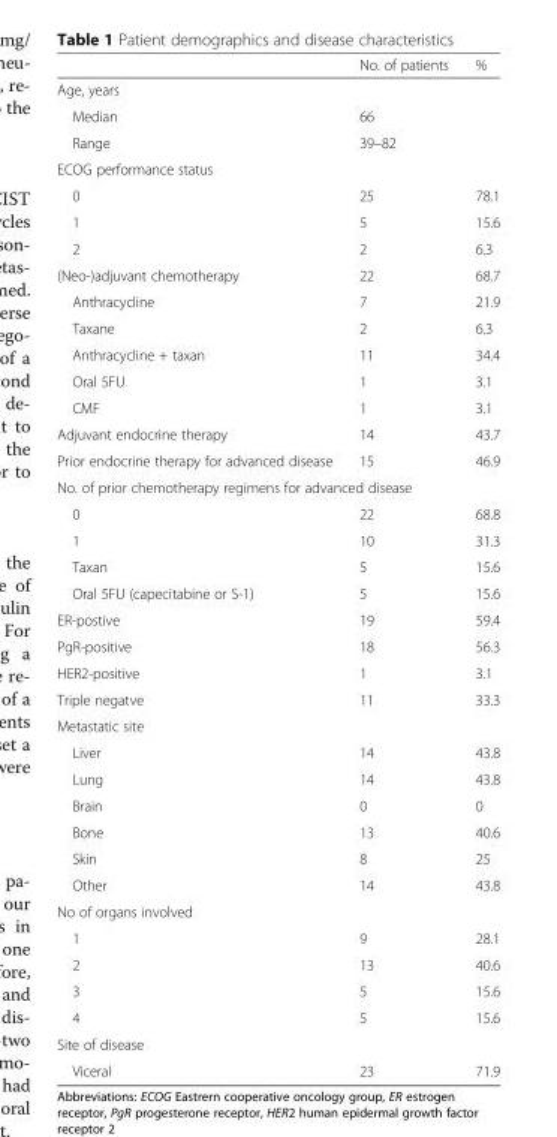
<table><thead><tr><td></td><td>No. of patients</td><td>%</td></tr></thead><tbody><tr><td colspan="3">Age, years</td></tr><tr><td>Median</td><td colspan="2">66</td></tr><tr><td>Range</td><td colspan="2">39–82</td></tr><tr><td colspan="3">ECOG performance status</td></tr><tr><td>0</td><td>25</td><td>78.1</td></tr><tr><td>1</td><td>5</td><td>15.6</td></tr><tr><td>2</td><td>2</td><td>6.3</td></tr><tr><td>(Neo-)adjuvant chemotherapy</td><td>22</td><td>68.7</td></tr><tr><td>Anthracycline</td><td>7</td><td>21.9</td></tr><tr><td>Taxane</td><td>2</td><td>6.3</td></tr><tr><td>Anthracycline + taxan</td><td>11</td><td>34.4</td></tr><tr><td>Oral 5FU</td><td>1</td><td>3.1</td></tr><tr><td>CMF</td><td>1</td><td>3.1</td></tr><tr><td>Adjuvant endocrine therapy</td><td>14</td><td>43.7</td></tr><tr><td>Prior endocrine therapy for advanced disease</td><td>15</td><td>46.9</td></tr><tr><td colspan="3">No. of prior chemotherapy regimens for advanced disease</td></tr><tr><td>0</td><td>22</td><td>68.8</td></tr><tr><td>1</td><td>10</td><td>31.3</td></tr><tr><td>Taxan</td><td>5</td><td>15.6</td></tr><tr><td>Oral 5FU (capecitabine or S-1)</td><td>5</td><td>15.6</td></tr><tr><td>ER-postive</td><td>19</td><td>59.4</td></tr><tr><td>PgR-positive</td><td>18</td><td>56.3</td></tr><tr><td>HER2-positive</td><td>1</td><td>3.1</td></tr><tr><td>Triple negatve</td><td>11</td><td>33.3</td></tr><tr><td colspan="3">Metastatic site</td></tr><tr><td>Liver</td><td>14</td><td>43.8</td></tr><tr><td>Lung</td><td>14</td><td>43.8</td></tr><tr><td>Brain</td><td>0</td><td>0</td></tr><tr><td>Bone</td><td>13</td><td>40.6</td></tr><tr><td>Skin</td><td>8</td><td>25</td></tr><tr><td>Other</td><td>14</td><td>43.8</td></tr><tr><td colspan="3">No of organs involved</td></tr><tr><td>1</td><td>9</td><td>28.1</td></tr><tr><td>2</td><td>13</td><td>40.6</td></tr><tr><td>3</td><td>5</td><td>15.6</td></tr><tr><td>4</td><td>5</td><td>15.6</td></tr><tr><td colspan="3">Site of disease</td></tr><tr><td>Viceral</td><td>23</td><td>71.9</td></tr></tbody></table>